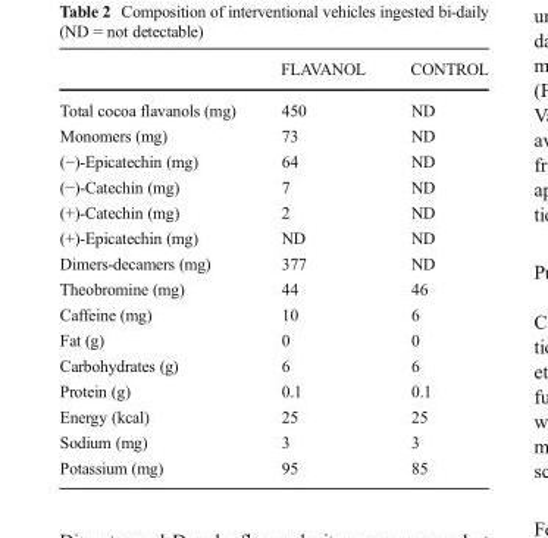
<table><thead><tr><td></td><td>FLAVANOL</td><td>CONTROL</td></tr></thead><tbody><tr><td>Total cocoa flavanols (mg)</td><td>450</td><td>ND</td></tr><tr><td>Monomers (mg)</td><td>73</td><td>ND</td></tr><tr><td>(−)-Epicatechin (mg)</td><td>64</td><td>ND</td></tr><tr><td>(−)-Catechin (mg)</td><td>7</td><td>ND</td></tr><tr><td>(+)-Catechin (mg)</td><td>2</td><td>ND</td></tr><tr><td>(+)-Epicatechin (mg)</td><td>ND</td><td>ND</td></tr><tr><td>Dimers-decamers (mg)</td><td>377</td><td>ND</td></tr><tr><td>Theobromine (mg)</td><td>44</td><td>46</td></tr><tr><td>Caffeine (mg)</td><td>10</td><td>6</td></tr><tr><td>Fat (g)</td><td>0</td><td>0</td></tr><tr><td>Carbohydrates (g)</td><td>6</td><td>6</td></tr><tr><td>Protein (g)</td><td>0.1</td><td>0.1</td></tr><tr><td>Energy (kcal)</td><td>25</td><td>25</td></tr><tr><td>Sodium (mg)</td><td>3</td><td>3</td></tr><tr><td>Potassium (mg)</td><td>95</td><td>85</td></tr></tbody></table>